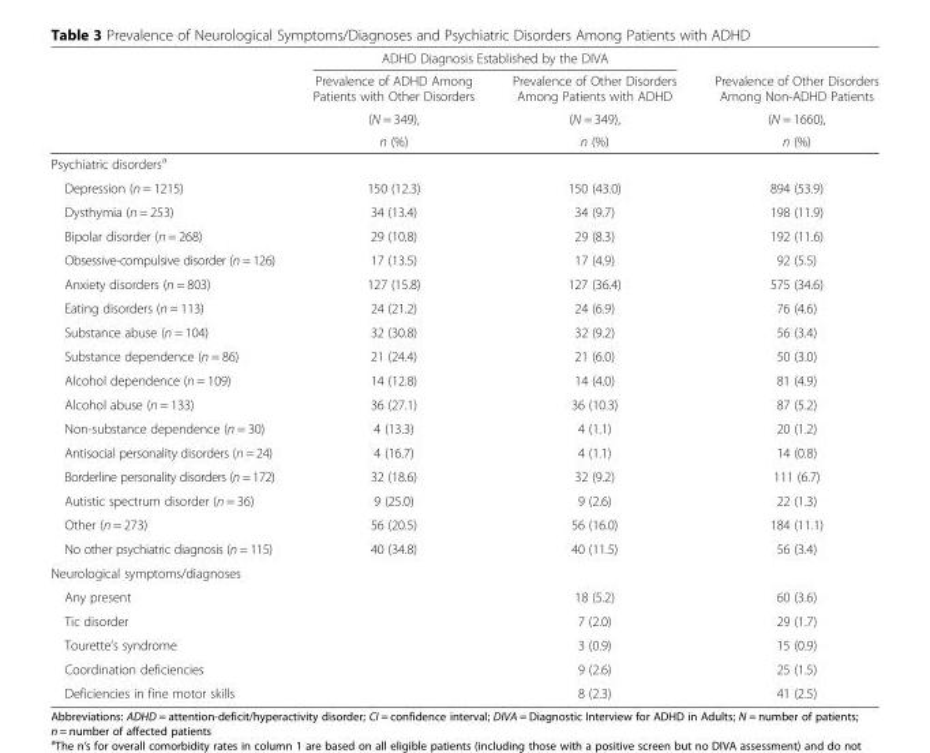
<table><thead><tr><td rowspan="4"></td><td colspan="2">ADHD Diagnosis Established by the DIVA</td><td rowspan="4">Prevalence of Other Disorders Among Non-ADHD Patients (N = 1660), n (%)</td></tr><tr><td rowspan="3">Prevalence of ADHD Among Patients with Other Disorders (N = 349), n (%)</td><td rowspan="3">Prevalence of Other Disorders Among Patients with ADHD (N = 349), n (%)</td></tr><tr></tr><tr></tr></thead><tbody><tr><td colspan="4">Psychiatric disorders<sup>a</sup></td></tr><tr><td>Depression (n = 1215)</td><td>150 (12.3)</td><td>150 (43.0)</td><td>894 (53.9)</td></tr><tr><td>Dysthymia (n = 253)</td><td>34 (13.4)</td><td>34 (9.7)</td><td>198 (11.9)</td></tr><tr><td>Bipolar disorder (n = 268)</td><td>29 (10.8)</td><td>29 (8.3)</td><td>192 (11.6)</td></tr><tr><td>Obsessive-compulsive disorder (n = 126)</td><td>17 (13.5)</td><td>17 (4.9)</td><td>92 (5.5)</td></tr><tr><td>Anxiety disorders (n = 803)</td><td>127 (15.8)</td><td>127 (36.4)</td><td>575 (34.6)</td></tr><tr><td>Eating disorders (n = 113)</td><td>24 (21.2)</td><td>24 (6.9)</td><td>76 (4.6)</td></tr><tr><td>Substance abuse (n = 104)</td><td>32 (30.8)</td><td>32 (9.2)</td><td>56 (3.4)</td></tr><tr><td>Substance dependence (n = 86)</td><td>21 (24.4)</td><td>21 (6.0)</td><td>50 (3.0)</td></tr><tr><td>Alcohol dependence (n = 109)</td><td>14 (12.8)</td><td>14 (4.0)</td><td>81 (4.9)</td></tr><tr><td>Alcohol abuse (n = 133)</td><td>36 (27.1)</td><td>36 (10.3)</td><td>87 (5.2)</td></tr><tr><td>Non-substance dependence (n = 30)</td><td>4 (13.3)</td><td>4 (1.1)</td><td>20 (1.2)</td></tr><tr><td>Antisocial personality disorders (n = 24)</td><td>4 (16.7)</td><td>4 (1.1)</td><td>14 (0.8)</td></tr><tr><td>Borderline personality disorders (n = 172)</td><td>32 (18.6)</td><td>32 (9.2)</td><td>111 (6.7)</td></tr><tr><td>Autistic spectrum disorder (n = 36)</td><td>9 (25.0)</td><td>9 (2.6)</td><td>22 (1.3)</td></tr><tr><td>Other (n = 273)</td><td>56 (20.5)</td><td>56 (16.0)</td><td>184 (11.1)</td></tr><tr><td>No other psychiatric diagnosis (n = 115)</td><td>40 (34.8)</td><td>40 (11.5)</td><td>56 (3.4)</td></tr><tr><td colspan="4">Neurological symptoms/diagnoses</td></tr><tr><td>Any present</td><td></td><td>18 (5.2)</td><td>60 (3.6)</td></tr><tr><td>Tic disorder</td><td></td><td>7 (2.0)</td><td>29 (1.7)</td></tr><tr><td>Tourette’s syndrome</td><td></td><td>3 (0.9)</td><td>15 (0.9)</td></tr><tr><td>Coordination deficiencies</td><td></td><td>9 (2.6)</td><td>25 (1.5)</td></tr><tr><td>Deficiencies in fine motor skills</td><td></td><td>8 (2.3)</td><td>41 (2.5)</td></tr></tbody></table>